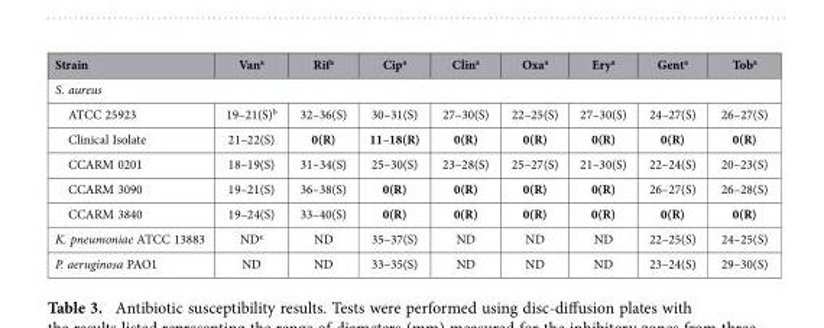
<table><thead><tr><td>Strain</td><td>Van<sup>a</sup></td><td>Rif<sup>a</sup></td><td>Cip<sup>a</sup></td><td>Clin<sup>a</sup></td><td>Oxa<sup>a</sup></td><td>Ery<sup>a</sup></td><td>Gent<sup>a</sup></td><td>Tob<sup>a</sup></td></tr></thead><tbody><tr><td colspan="9">S. aureus</td></tr><tr><td>ATCC 25923</td><td>19–21(S)<sup>b</sup></td><td>32–36(S)</td><td>30–31(S)</td><td>27–30(S)</td><td>22–25(S)</td><td>27–30(S)</td><td>24–27(S)</td><td>26–27(S)</td></tr><tr><td>Clinical Isolate</td><td>21–22(S)</td><td>0(R)</td><td>11–18(R)</td><td>0(R)</td><td>0(R)</td><td>0(R)</td><td>0(R)</td><td>0(R)</td></tr><tr><td>CCARM 0201</td><td>18–19(S)</td><td>31–34(S)</td><td>25–30(S)</td><td>23–28(S)</td><td>25–27(S)</td><td>21–30(S)</td><td>22–24(S)</td><td>20–23(S)</td></tr><tr><td>CCARM 3090</td><td>19–21(S)</td><td>36–38(S)</td><td>0(R)</td><td>0(R)</td><td>0(R)</td><td>0(R)</td><td>26–27(S)</td><td>26–28(S)</td></tr><tr><td>CCARM 3840</td><td>19–24(S)</td><td>33–40(S)</td><td>0(R)</td><td>0(R)</td><td>0(R)</td><td>0(R)</td><td>0(R)</td><td>0(R)</td></tr><tr><td>K. pneumoniae ATCC 13883</td><td>ND<sup>c</sup></td><td>ND</td><td>35–37(S)</td><td>ND</td><td>ND</td><td>ND</td><td>22–25(S)</td><td>24–25(S)</td></tr><tr><td>P. aeruginosa PAO1</td><td>ND</td><td>ND</td><td>33–35(S)</td><td>ND</td><td>ND</td><td>ND</td><td>23–24(S)</td><td>29–30(S)</td></tr></tbody></table>